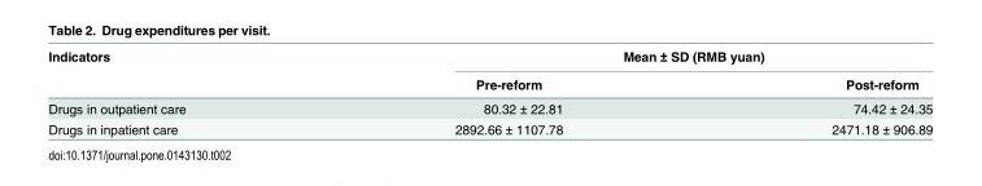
<table><thead><tr><td rowspan="2">Indicators</td><td colspan="2">Mean ± SD (RMB yuan)</td></tr><tr><td>Pre-reform</td><td>Post-reform</td></tr></thead><tbody><tr><td>Drugs in outpatient care</td><td>80.32 ± 22.81</td><td>74.42 ± 24.35</td></tr><tr><td>Drugs in inpatient care</td><td>2892.66 ± 1107.78</td><td>2471.18 ± 906.89</td></tr></tbody></table>